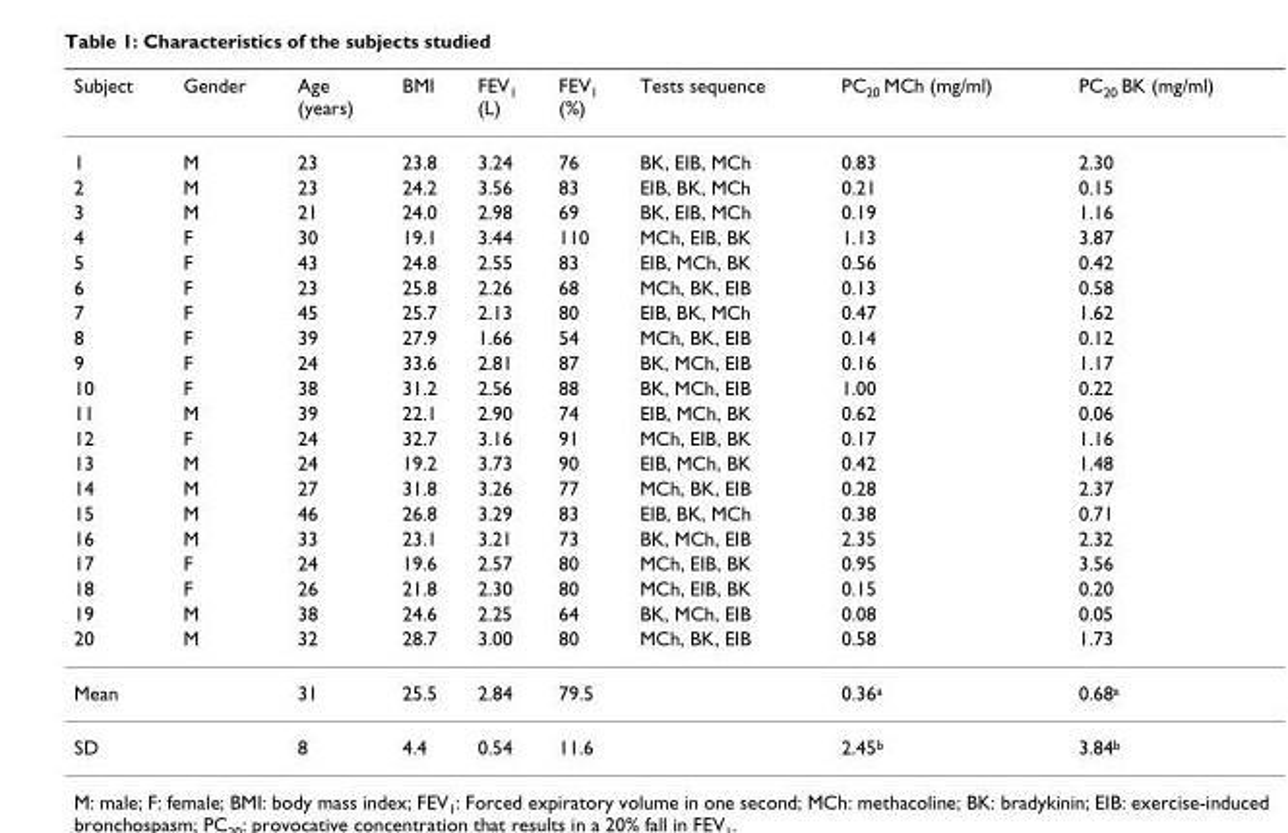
<table><thead><tr><td>Subject</td><td>Gender</td><td>Age (years)</td><td>BMI</td><td>FEV<sub>1</sub> (L)</td><td>FEV<sub>1</sub> (%)</td><td>Tests sequence</td><td>PC<sub>20</sub> MCh (mg/ml)</td><td>PC<sub>20</sub> BK (mg/ml)</td></tr></thead><tbody><tr><td>1</td><td>M</td><td>23</td><td>23.8</td><td>3.24</td><td>76</td><td>BK, EIB, MCh</td><td>0.83</td><td>2.30</td></tr><tr><td>2</td><td>M</td><td>23</td><td>24.2</td><td>3.56</td><td>83</td><td>EIB, BK, MCh</td><td>0.21</td><td>0.15</td></tr><tr><td>3</td><td>M</td><td>21</td><td>24.0</td><td>2.98</td><td>69</td><td>BK, EIB, MCh</td><td>0.19</td><td>1.16</td></tr><tr><td>4</td><td>F</td><td>30</td><td>19.1</td><td>3.44</td><td>110</td><td>MCh, EIB, BK</td><td>1.13</td><td>3.87</td></tr><tr><td>5</td><td>F</td><td>43</td><td>24.8</td><td>2.55</td><td>83</td><td>EIB, MCh, BK</td><td>0.56</td><td>0.42</td></tr><tr><td>6</td><td>F</td><td>23</td><td>25.8</td><td>2.26</td><td>68</td><td>MCh, BK, EIB</td><td>0.13</td><td>0.58</td></tr><tr><td>7</td><td>F</td><td>45</td><td>25.7</td><td>2.13</td><td>80</td><td>EIB, BK, MCh</td><td>0.47</td><td>1.62</td></tr><tr><td>8</td><td>F</td><td>39</td><td>27.9</td><td>1.66</td><td>54</td><td>MCh, BK, EIB</td><td>0.14</td><td>0.12</td></tr><tr><td>9</td><td>F</td><td>24</td><td>33.6</td><td>2.81</td><td>87</td><td>BK, MCh, EIB</td><td>0.16</td><td>1.17</td></tr><tr><td>10</td><td>F</td><td>38</td><td>31.2</td><td>2.56</td><td>88</td><td>BK, MCh, EIB</td><td>1.00</td><td>0.22</td></tr><tr><td>11</td><td>M</td><td>39</td><td>22.1</td><td>2.90</td><td>74</td><td>EIB, MCh, BK</td><td>0.62</td><td>0.06</td></tr><tr><td>12</td><td>F</td><td>24</td><td>32.7</td><td>3.16</td><td>91</td><td>MCh, EIB, BK</td><td>0.17</td><td>1.16</td></tr><tr><td>13</td><td>M</td><td>24</td><td>19.2</td><td>3.73</td><td>90</td><td>EIB, MCh, BK</td><td>0.42</td><td>1.48</td></tr><tr><td>14</td><td>M</td><td>27</td><td>31.8</td><td>3.26</td><td>77</td><td>MCh, BK, EIB</td><td>0.28</td><td>2.37</td></tr><tr><td>15</td><td>M</td><td>46</td><td>26.8</td><td>3.29</td><td>83</td><td>EIB, BK, MCh</td><td>0.38</td><td>0.71</td></tr><tr><td>16</td><td>M</td><td>33</td><td>23.1</td><td>3.21</td><td>73</td><td>BK, MCh, EIB</td><td>2.35</td><td>2.32</td></tr><tr><td>17</td><td>F</td><td>24</td><td>19.6</td><td>2.57</td><td>80</td><td>MCh, EIB, BK</td><td>0.95</td><td>3.56</td></tr><tr><td>18</td><td>F</td><td>26</td><td>21.8</td><td>2.30</td><td>80</td><td>MCh, EIB, BK</td><td>0.15</td><td>0.20</td></tr><tr><td>19</td><td>M</td><td>38</td><td>24.6</td><td>2.25</td><td>64</td><td>BK, MCh, EIB</td><td>0.08</td><td>0.05</td></tr><tr><td>20</td><td>M</td><td>32</td><td>28.7</td><td>3.00</td><td>80</td><td>MCh, BK, EIB</td><td>0.58</td><td>1.73</td></tr><tr><td>Mean</td><td></td><td>31</td><td>25.5</td><td>2.84</td><td>79.5</td><td></td><td>0.36<sup>a</sup></td><td>0.68<sup>a</sup></td></tr><tr><td>SD</td><td></td><td>8</td><td>4.4</td><td>0.54</td><td>11.6</td><td></td><td>2.45<sup>b</sup></td><td>3.84<sup>b</sup></td></tr></tbody></table>